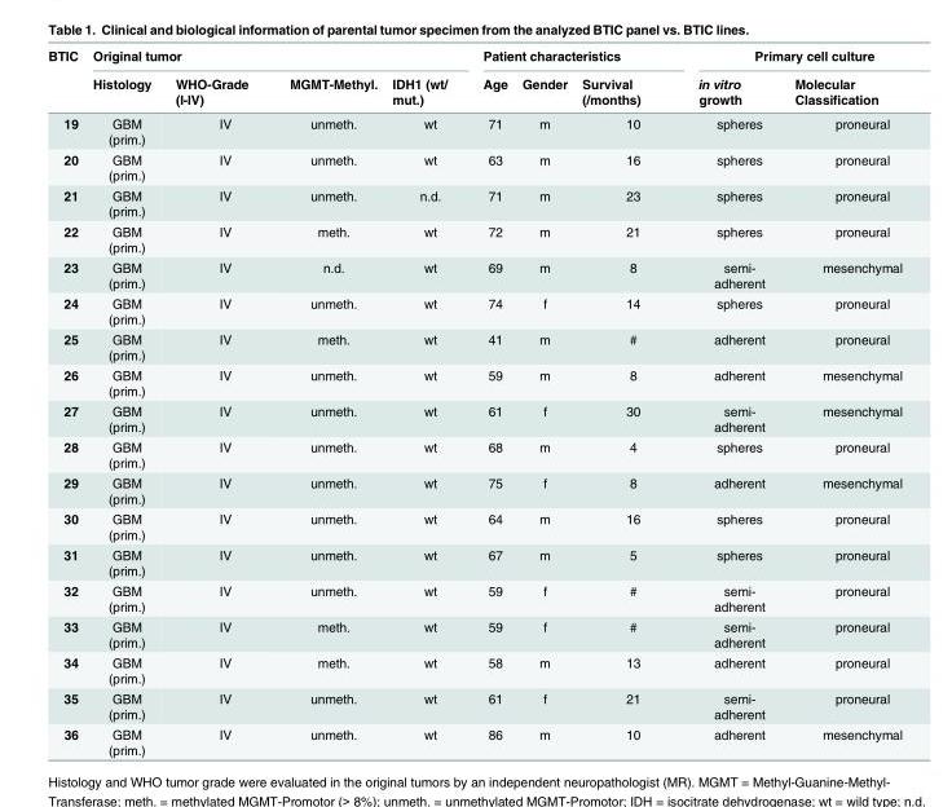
<table><thead><tr><td rowspan="2">BTIC</td><td colspan="4">Original tumor</td><td colspan="3">Patient characteristics</td><td colspan="2">Primary cell culture</td></tr><tr><td>Histology</td><td>WHO-Grade (I-IV)</td><td>MGMT-Methyl.</td><td>IDH1 (wt/ mut.)</td><td>Age</td><td>Gender</td><td>Survival (/months)</td><td>in vitro growth</td><td>Molecular Classification</td></tr></thead><tbody><tr><td>19</td><td>GBM (prim.)</td><td>IV</td><td>unmeth.</td><td>wt</td><td>71</td><td>m</td><td>10</td><td>spheres</td><td>proneural</td></tr><tr><td>20</td><td>GBM (prim.)</td><td>IV</td><td>unmeth.</td><td>wt</td><td>63</td><td>m</td><td>16</td><td>spheres</td><td>proneural</td></tr><tr><td>21</td><td>GBM (prim.)</td><td>IV</td><td>unmeth.</td><td>n.d.</td><td>71</td><td>m</td><td>23</td><td>spheres</td><td>proneural</td></tr><tr><td>22</td><td>GBM (prim.)</td><td>IV</td><td>meth.</td><td>wt</td><td>72</td><td>m</td><td>21</td><td>spheres</td><td>proneural</td></tr><tr><td>23</td><td>GBM (prim.)</td><td>IV</td><td>n.d.</td><td>wt</td><td>69</td><td>m</td><td>8</td><td>semi- adherent</td><td>mesenchymal</td></tr><tr><td>24</td><td>GBM (prim.)</td><td>IV</td><td>unmeth.</td><td>wt</td><td>74</td><td>f</td><td>14</td><td>spheres</td><td>proneural</td></tr><tr><td>25</td><td>GBM (prim.)</td><td>IV</td><td>meth.</td><td>wt</td><td>41</td><td>m</td><td>#</td><td>adherent</td><td>proneural</td></tr><tr><td>26</td><td>GBM (prim.)</td><td>IV</td><td>unmeth.</td><td>wt</td><td>59</td><td>m</td><td>8</td><td>adherent</td><td>mesenchymal</td></tr><tr><td>27</td><td>GBM (prim.)</td><td>IV</td><td>unmeth.</td><td>wt</td><td>61</td><td>f</td><td>30</td><td>semi- adherent</td><td>mesenchymal</td></tr><tr><td>28</td><td>GBM (prim.)</td><td>IV</td><td>unmeth.</td><td>wt</td><td>68</td><td>m</td><td>4</td><td>spheres</td><td>proneural</td></tr><tr><td>29</td><td>GBM (prim.)</td><td>IV</td><td>unmeth.</td><td>wt</td><td>75</td><td>f</td><td>8</td><td>adherent</td><td>mesenchymal</td></tr><tr><td>30</td><td>GBM (prim.)</td><td>IV</td><td>unmeth.</td><td>wt</td><td>64</td><td>m</td><td>16</td><td>spheres</td><td>proneural</td></tr><tr><td>31</td><td>GBM (prim.)</td><td>IV</td><td>unmeth.</td><td>wt</td><td>67</td><td>m</td><td>5</td><td>spheres</td><td>proneural</td></tr><tr><td>32</td><td>GBM (prim.)</td><td>IV</td><td>unmeth.</td><td>wt</td><td>59</td><td>f</td><td>#</td><td>semi- adherent</td><td>proneural</td></tr><tr><td>33</td><td>GBM (prim.)</td><td>IV</td><td>meth.</td><td>wt</td><td>59</td><td>f</td><td>#</td><td>semi- adherent</td><td>proneural</td></tr><tr><td>34</td><td>GBM (prim.)</td><td>IV</td><td>meth.</td><td>wt</td><td>58</td><td>m</td><td>13</td><td>adherent</td><td>proneural</td></tr><tr><td>35</td><td>GBM (prim.)</td><td>IV</td><td>unmeth.</td><td>wt</td><td>61</td><td>f</td><td>21</td><td>semi- adherent</td><td>proneural</td></tr><tr><td>36</td><td>GBM (prim.)</td><td>IV</td><td>unmeth.</td><td>wt</td><td>86</td><td>m</td><td>10</td><td>adherent</td><td>mesenchymal</td></tr></tbody></table>